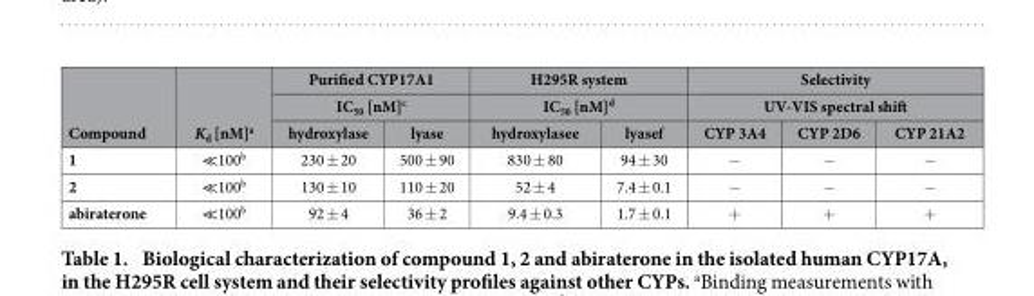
<table><thead><tr><td rowspan="3">Compound</td><td rowspan="3">K<sub>d</sub> [nM]<sup>a</sup></td><td rowspan="2" colspan="2">Purified CYP17A1 IC<sub>50</sub> [nM]<sup>c</sup></td><td rowspan="2" colspan="2">H295R system IC<sub>50</sub> [nM]<sup>d</sup></td><td rowspan="2" colspan="3">Selectivity UV-VIS spectral shift</td></tr><tr></tr><tr><td>hydroxylase</td><td>lyase</td><td>hydroxylase<sup>e</sup></td><td>lyase<sup>f</sup></td><td>CYP 3A4</td><td>CYP 2D6</td><td>CYP 21A2</td></tr></thead><tbody><tr><td>1</td><td>≪ 100<sup>b</sup></td><td>230 ± 20</td><td>500 ± 90</td><td>830 ± 80</td><td>94 ± 30</td><td>−</td><td>−</td><td>−</td></tr><tr><td>2</td><td>≪ 100<sup>b</sup></td><td>130 ± 10</td><td>110 ± 20</td><td>52 ± 4</td><td>7.4 ± 0.1</td><td>−</td><td>−</td><td>−</td></tr><tr><td>abiraterone</td><td>≪ 100<sup>b</sup></td><td>92 ± 4</td><td>36 ± 2</td><td>9.4 ± 0.3</td><td>1.7 ± 0.1</td><td>+</td><td>+</td><td>+</td></tr></tbody></table>